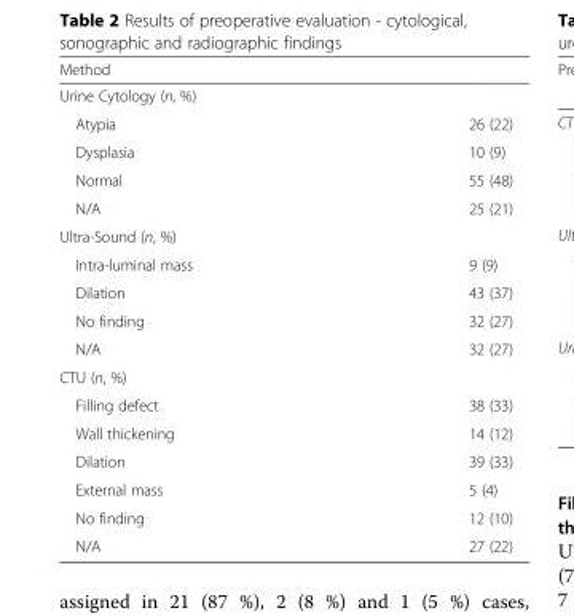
<table><thead><tr><td>Method</td><td></td></tr></thead><tbody><tr><td colspan="2">Urine Cytology (n, %)</td></tr><tr><td>Atypia</td><td>26 (22)</td></tr><tr><td>Dysplasia</td><td>10 (9)</td></tr><tr><td>Normal</td><td>55 (48)</td></tr><tr><td>N/A</td><td>25 (21)</td></tr><tr><td colspan="2">Ultra-Sound (n, %)</td></tr><tr><td>Intra-luminal mass</td><td>9 (9)</td></tr><tr><td>Dilation</td><td>43 (37)</td></tr><tr><td>No finding</td><td>32 (27)</td></tr><tr><td>N/A</td><td>32 (27)</td></tr><tr><td colspan="2">CTU (n, %)</td></tr><tr><td>Filling defect</td><td>38 (33)</td></tr><tr><td>Wall thickening</td><td>14 (12)</td></tr><tr><td>Dilation</td><td>39 (33)</td></tr><tr><td>External mass</td><td>5 (4)</td></tr><tr><td>No finding</td><td>12 (10)</td></tr><tr><td>N/A</td><td>27 (22)</td></tr></tbody></table>